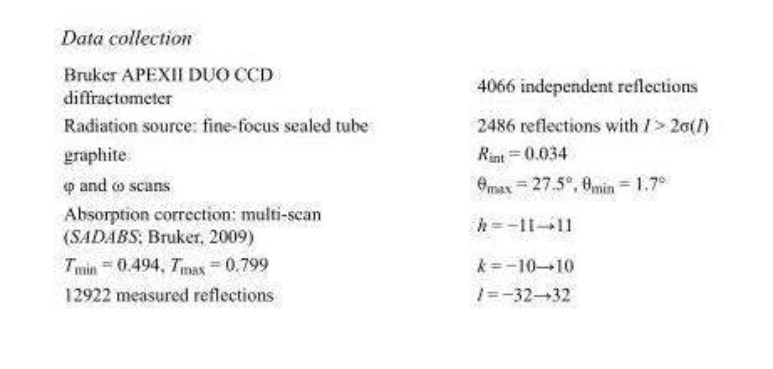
<table><tbody><tr><td>Bruker APEXII DUO CCD diffractometer</td><td>4066 independent reflections</td></tr><tr><td>Radiation source: fine-focus sealed tube</td><td>2486 reflections with I &gt; 2σ(I)</td></tr><tr><td>graphite</td><td>R<sub>int</sub> = 0.034</td></tr><tr><td>φ and ω scans</td><td>θ<sub>max</sub> = 27.5°, θ<sub>min</sub> = 1.7°</td></tr><tr><td>Absorption correction: multi-scan (SADABS; Bruker, 2009)</td><td>h = −11→11</td></tr><tr><td>T<sub>min</sub> = 0.494, T<sub>max</sub> = 0.799</td><td>k = −10→10</td></tr><tr><td>12922 measured reflections</td><td>l = −32→32</td></tr></tbody></table>